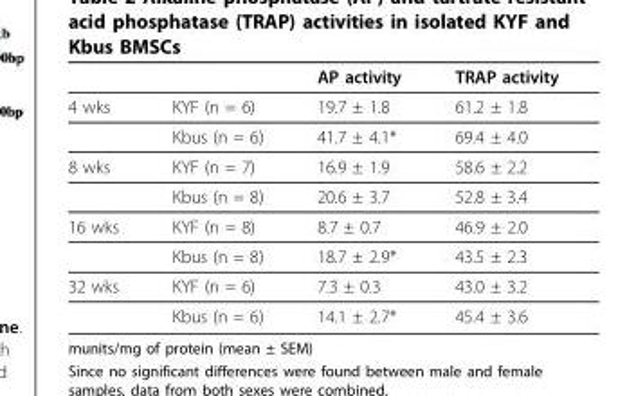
<table><thead><tr><td></td><td></td><td>AP activity</td><td>TRAP activity</td></tr></thead><tbody><tr><td rowspan="2">4 wks</td><td>KYF (n = 6)</td><td>19.7 ± 1.8</td><td>61.2 ± 1.8</td></tr><tr><td>Kbus (n = 6)</td><td>41.7 ± 4.1*</td><td>69.4 ± 4.0</td></tr><tr><td rowspan="2">8 wks</td><td>KYF (n = 7)</td><td>16.9 ± 1.9</td><td>58.6 ± 2.2</td></tr><tr><td>Kbus (n = 8)</td><td>20.6 ± 3.7</td><td>52.8 ± 3.4</td></tr><tr><td rowspan="2">16 wks</td><td>KYF (n = 8)</td><td>8.7 ± 0.7</td><td>46.9 ± 2.0</td></tr><tr><td>Kbus (n = 8)</td><td>18.7 ± 2.9*</td><td>43.5 ± 2.3</td></tr><tr><td rowspan="2">32 wks</td><td>KYF (n = 6)</td><td>7.3 ± 0.3</td><td>43.0 ± 3.2</td></tr><tr><td>Kbus (n = 6)</td><td>14.1 ± 2.7*</td><td>45.4 ± 3.6</td></tr></tbody></table>